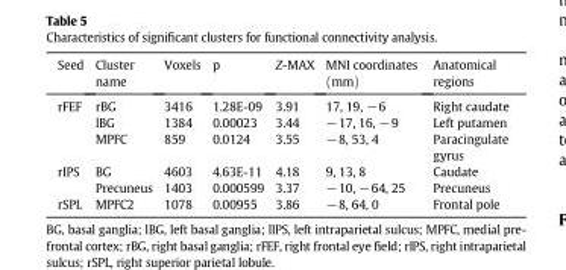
<table><thead><tr><td>Seed</td><td>Cluster name</td><td>Voxels</td><td>p</td><td>Z-MAX</td><td>MNI coordinates (mm)</td><td>Anatomical regions</td></tr></thead><tbody><tr><td rowspan="3">rFEF</td><td>rBG</td><td>3416</td><td>1.28E-09</td><td>3.91</td><td>17, 19, −6</td><td>Right caudate</td></tr><tr><td>lBG</td><td>1384</td><td>0.00023</td><td>3.44</td><td>−17, 16, −9</td><td>Left putamen</td></tr><tr><td>MPFC</td><td>859</td><td>0.0124</td><td>3.55</td><td>−8, 53, 4</td><td>Paracingulate gyrus</td></tr><tr><td rowspan="2">rIPS</td><td>BG</td><td>4603</td><td>4.63E-11</td><td>4.18</td><td>9, 13, 8</td><td>Caudate</td></tr><tr><td>Precuneus</td><td>1403</td><td>0.000599</td><td>3.37</td><td>−10, −64, 25</td><td>Precuneus</td></tr><tr><td>rSPL</td><td>MPFC2</td><td>1078</td><td>0.00955</td><td>3.86</td><td>−8, 64, 0</td><td>Frontal pole</td></tr></tbody></table>